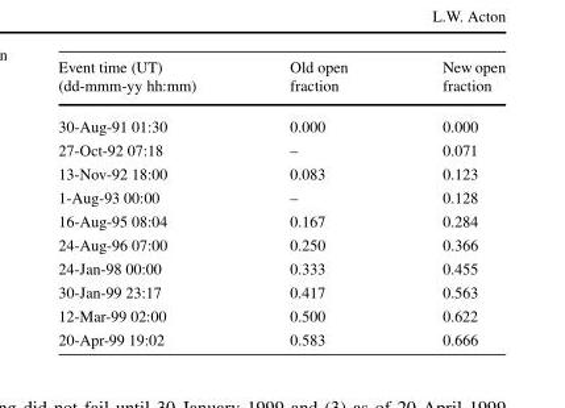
<table><thead><tr><td>Event time (UT) (dd-mmm-yy hh:mm)</td><td>Old open fraction</td><td>New open fraction</td></tr></thead><tbody><tr><td>30-Aug-91 01:30</td><td>0.000</td><td>0.000</td></tr><tr><td>27-Oct-92 07:18</td><td>–</td><td>0.071</td></tr><tr><td>13-Nov-92 18:00</td><td>0.083</td><td>0.123</td></tr><tr><td>1-Aug-93 00:00</td><td>–</td><td>0.128</td></tr><tr><td>16-Aug-95 08:04</td><td>0.167</td><td>0.284</td></tr><tr><td>24-Aug-96 07:00</td><td>0.250</td><td>0.366</td></tr><tr><td>24-Jan-98 00:00</td><td>0.333</td><td>0.455</td></tr><tr><td>30-Jan-99 23:17</td><td>0.417</td><td>0.563</td></tr><tr><td>12-Mar-99 02:00</td><td>0.500</td><td>0.622</td></tr><tr><td>20-Apr-99 19:02</td><td>0.583</td><td>0.666</td></tr></tbody></table>